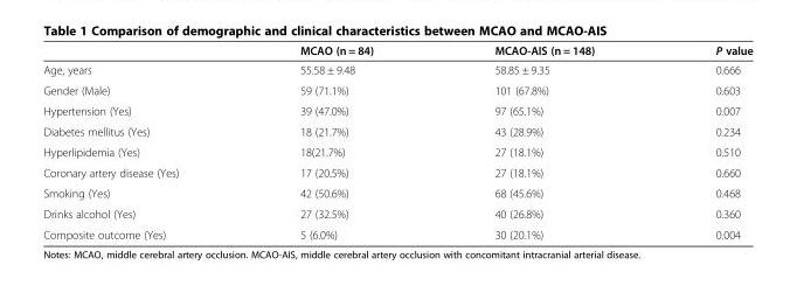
<table><thead><tr><td></td><td>MCAO (n = 84)</td><td>MCAO-AIS (n = 148)</td><td>P value</td></tr></thead><tbody><tr><td>Age, years</td><td>55.58 ± 9.48</td><td>58.85 ± 9.35</td><td>0.666</td></tr><tr><td>Gender (Male)</td><td>59 (71.1%)</td><td>101 (67.8%)</td><td>0.603</td></tr><tr><td>Hypertension (Yes)</td><td>39 (47.0%)</td><td>97 (65.1%)</td><td>0.007</td></tr><tr><td>Diabetes mellitus (Yes)</td><td>18 (21.7%)</td><td>43 (28.9%)</td><td>0.234</td></tr><tr><td>Hyperlipidemia (Yes)</td><td>18(21.7%)</td><td>27 (18.1%)</td><td>0.510</td></tr><tr><td>Coronary artery disease (Yes)</td><td>17 (20.5%)</td><td>27 (18.1%)</td><td>0.660</td></tr><tr><td>Smoking (Yes)</td><td>42 (50.6%)</td><td>68 (45.6%)</td><td>0.468</td></tr><tr><td>Drinks alcohol (Yes)</td><td>27 (32.5%)</td><td>40 (26.8%)</td><td>0.360</td></tr><tr><td>Composite outcome (Yes)</td><td>5 (6.0%)</td><td>30 (20.1%)</td><td>0.004</td></tr></tbody></table>